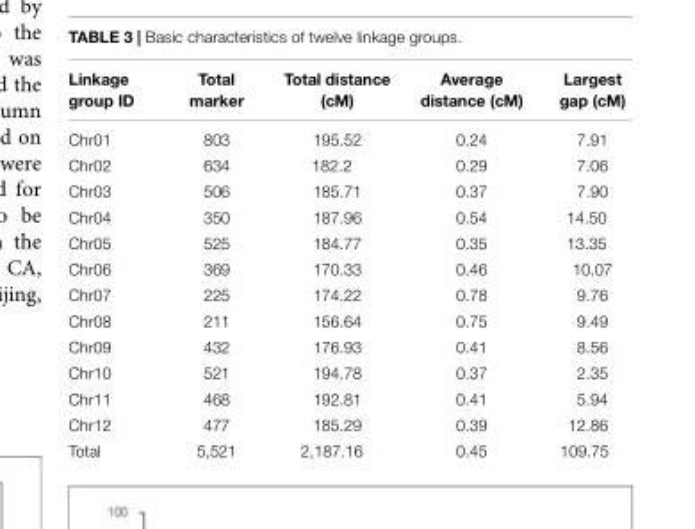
<table><thead><tr><td>Linkage group ID</td><td>Total marker</td><td>Total distance (cM)</td><td>Average distance (cM)</td><td>Largest gap (cM)</td></tr></thead><tbody><tr><td>Chr01</td><td>803</td><td>195.52</td><td>0.24</td><td>7.91</td></tr><tr><td>Chr02</td><td>634</td><td>182.2</td><td>0.29</td><td>7.06</td></tr><tr><td>Chr03</td><td>506</td><td>185.71</td><td>0.37</td><td>7.90</td></tr><tr><td>Chr04</td><td>350</td><td>187.96</td><td>0.54</td><td>14.50</td></tr><tr><td>Chr05</td><td>525</td><td>184.77</td><td>0.35</td><td>13.35</td></tr><tr><td>Chr06</td><td>369</td><td>170.33</td><td>0.46</td><td>10.07</td></tr><tr><td>Chr07</td><td>225</td><td>174.22</td><td>0.78</td><td>9.76</td></tr><tr><td>Chr08</td><td>211</td><td>156.64</td><td>0.75</td><td>9.49</td></tr><tr><td>Chr09</td><td>432</td><td>176.93</td><td>0.41</td><td>8.56</td></tr><tr><td>Chr10</td><td>521</td><td>194.78</td><td>0.37</td><td>2.35</td></tr><tr><td>Chr11</td><td>468</td><td>192.81</td><td>0.41</td><td>5.94</td></tr><tr><td>Chr12</td><td>477</td><td>185.29</td><td>0.39</td><td>12.86</td></tr><tr><td>Total</td><td>5,521</td><td>2,187.16</td><td>0.45</td><td>109.75</td></tr></tbody></table>